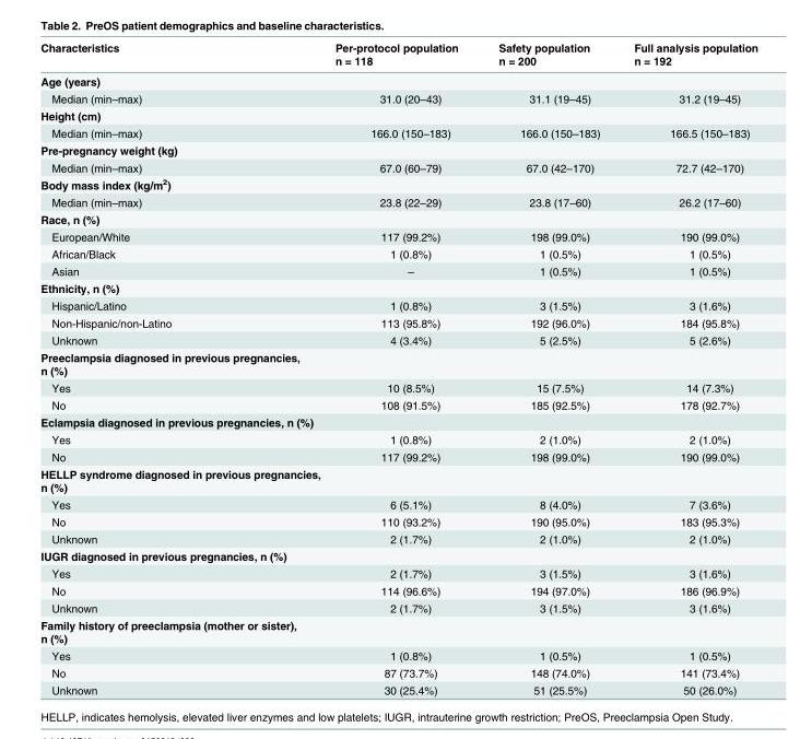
<table><thead><tr><td>Characteristics</td><td>Per-protocol population n = 118</td><td>Safety population n = 200</td><td>Full analysis population n = 192</td></tr></thead><tbody><tr><td colspan="4">Age (years)</td></tr><tr><td>Median (min–max)</td><td>31.0 (20–43)</td><td>31.1 (19–45)</td><td>31.2 (19–45)</td></tr><tr><td colspan="4">Height (cm)</td></tr><tr><td>Median (min–max)</td><td>166.0 (150–183)</td><td>166.0 (150–183)</td><td>166.5 (150–183)</td></tr><tr><td colspan="4">Pre-pregnancy weight (kg)</td></tr><tr><td>Median (min–max)</td><td>67.0 (60–79)</td><td>67.0 (42–170)</td><td>72.7 (42–170)</td></tr><tr><td colspan="4">Body mass index (kg/m<sup>2</sup>)</td></tr><tr><td>Median (min–max)</td><td>23.8 (22–29)</td><td>23.8 (17–60)</td><td>26.2 (17–60)</td></tr><tr><td colspan="4">Race, n (%)</td></tr><tr><td>European/White</td><td>117 (99.2%)</td><td>198 (99.0%)</td><td>190 (99.0%)</td></tr><tr><td>African/Black</td><td>1 (0.8%)</td><td>1 (0.5%)</td><td>1 (0.5%)</td></tr><tr><td>Asian</td><td>–</td><td>1 (0.5%)</td><td>1 (0.5%)</td></tr><tr><td colspan="4">Ethnicity, n (%)</td></tr><tr><td>Hispanic/Latino</td><td>1 (0.8%)</td><td>3 (1.5%)</td><td>3 (1.6%)</td></tr><tr><td>Non-Hispanic/non-Latino</td><td>113 (95.8%)</td><td>192 (96.0%)</td><td>184 (95.8%)</td></tr><tr><td>Unknown</td><td>4 (3.4%)</td><td>5 (2.5%)</td><td>5 (2.6%)</td></tr><tr><td colspan="4">Preeclampsia diagnosed in previous pregnancies, n (%)</td></tr><tr><td>Yes</td><td>10 (8.5%)</td><td>15 (7.5%)</td><td>14 (7.3%)</td></tr><tr><td>No</td><td>108 (91.5%)</td><td>185 (92.5%)</td><td>178 (92.7%)</td></tr><tr><td colspan="4">Eclampsia diagnosed in previous pregnancies, n (%)</td></tr><tr><td>Yes</td><td>1 (0.8%)</td><td>2 (1.0%)</td><td>2 (1.0%)</td></tr><tr><td>No</td><td>117 (99.2%)</td><td>198 (99.0%)</td><td>190 (99.0%)</td></tr><tr><td colspan="4">HELLP syndrome diagnosed in previous pregnancies, n (%)</td></tr><tr><td>Yes</td><td>6 (5.1%)</td><td>8 (4.0%)</td><td>7 (3.6%)</td></tr><tr><td>No</td><td>110 (93.2%)</td><td>190 (95.0%)</td><td>183 (95.3%)</td></tr><tr><td>Unknown</td><td>2 (1.7%)</td><td>2 (1.0%)</td><td>2 (1.0%)</td></tr><tr><td colspan="4">IUGR diagnosed in previous pregnancies, n (%)</td></tr><tr><td>Yes</td><td>2 (1.7%)</td><td>3 (1.5%)</td><td>3 (1.6%)</td></tr><tr><td>No</td><td>114 (96.6%)</td><td>194 (97.0%)</td><td>186 (96.9%)</td></tr><tr><td>Unknown</td><td>2 (1.7%)</td><td>3 (1.5%)</td><td>3 (1.6%)</td></tr><tr><td colspan="4">Family history of preeclampsia (mother or sister), n (%)</td></tr><tr><td>Yes</td><td>1 (0.8%)</td><td>1 (0.5%)</td><td>1 (0.5%)</td></tr><tr><td>No</td><td>87 (73.7%)</td><td>148 (74.0%)</td><td>141 (73.4%)</td></tr><tr><td>Unknown</td><td>30 (25.4%)</td><td>51 (25.5%)</td><td>50 (26.0%)</td></tr></tbody></table>